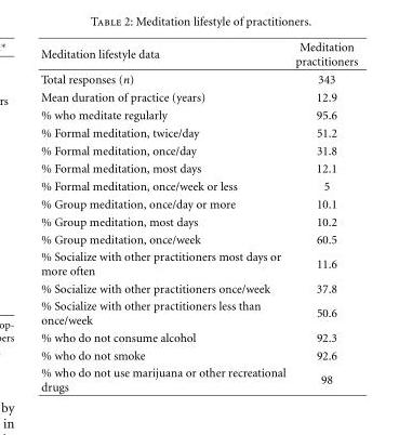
<table><thead><tr><td>Meditation lifestyle data</td><td>Meditation practitioners</td></tr></thead><tbody><tr><td>Total responses (n)</td><td>343</td></tr><tr><td>Mean duration of practice (years)</td><td>12.9</td></tr><tr><td>% who meditate regularly</td><td>95.6</td></tr><tr><td>% Formal meditation, twice/day</td><td>51.2</td></tr><tr><td>% Formal meditation, once/day</td><td>31.8</td></tr><tr><td>% Formal meditation, most days</td><td>12.1</td></tr><tr><td>% Formal meditation, once/week or less</td><td>5</td></tr><tr><td>% Group meditation, once/day or more</td><td>10.1</td></tr><tr><td>% Group meditation, most days</td><td>10.2</td></tr><tr><td>% Group meditation, once/week</td><td>60.5</td></tr><tr><td>% Socialize with other practitioners most days or more often</td><td>11.6</td></tr><tr><td>% Socialize with other practitioners once/week</td><td>37.8</td></tr><tr><td>% Socialize with other practitioners less than once/week</td><td>50.6</td></tr><tr><td>% who do not consume alcohol</td><td>92.3</td></tr><tr><td>% who do not smoke</td><td>92.6</td></tr><tr><td>% who do not use marijuana or other recreational drugs</td><td>98</td></tr></tbody></table>